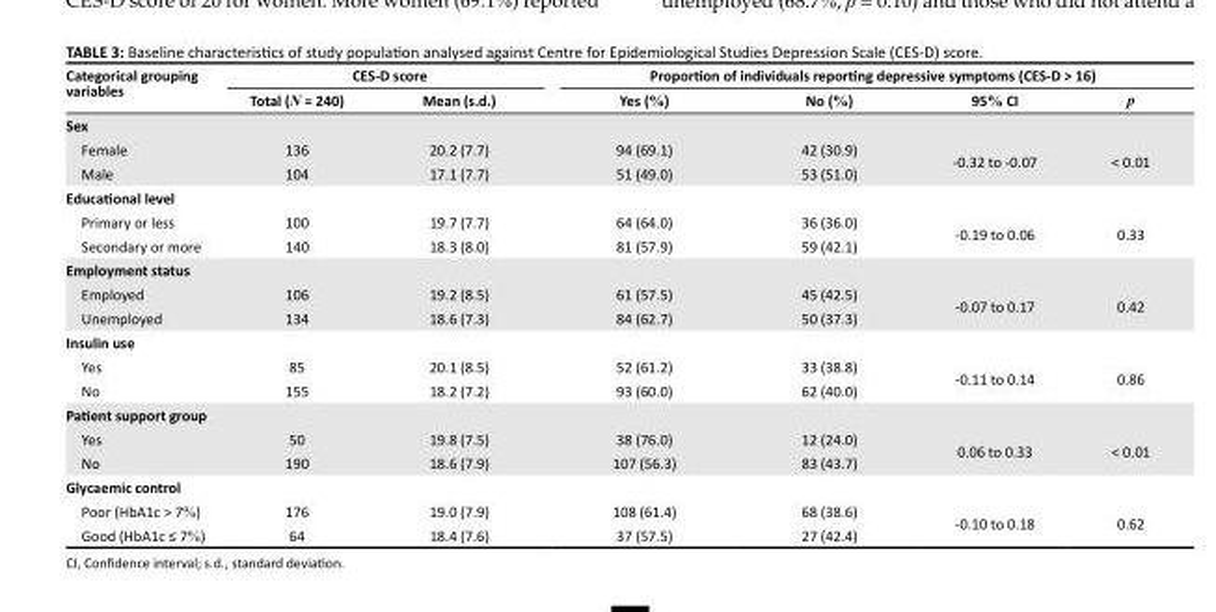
<table><thead><tr><td rowspan="2">Categorical grouping variables</td><td colspan="2">CES-D score</td><td colspan="4">Proportion of individuals reporting depressive symptoms (CES-D &gt; 16)</td></tr><tr><td>Total (N = 240)</td><td>Mean (s.d.)</td><td>Yes (%)</td><td>No (%)</td><td>95% CI</td><td>p</td></tr></thead><tbody><tr><td colspan="7">Sex</td></tr><tr><td>Female</td><td>136</td><td>20.2 (7.7)</td><td>94 (69.1)</td><td>42 (30.9)</td><td rowspan="2">-0.32 to -0.07</td><td rowspan="2">&lt; 0.01</td></tr><tr><td>Male</td><td>104</td><td>17.1 (7.7)</td><td>51 (49.0)</td><td>53 (51.0)</td></tr><tr><td colspan="7">Educational level</td></tr><tr><td>Primary or less</td><td>100</td><td>19.7 (7.7)</td><td>64 (64.0)</td><td>36 (36.0)</td><td rowspan="2">-0.19 to 0.06</td><td rowspan="2">0.33</td></tr><tr><td>Secondary or more</td><td>140</td><td>18.3 (8.0)</td><td>81 (57.9)</td><td>59 (42.1)</td></tr><tr><td colspan="7">Employment status</td></tr><tr><td>Employed</td><td>106</td><td>19.2 (8.5)</td><td>61 (57.5)</td><td>45 (42.5)</td><td rowspan="2">-0.07 to 0.17</td><td rowspan="2">0.42</td></tr><tr><td>Unemployed</td><td>134</td><td>18.6 (7.3)</td><td>84 (62.7)</td><td>50 (37.3)</td></tr><tr><td colspan="7">Insulin use</td></tr><tr><td>Yes</td><td>85</td><td>20.1 (8.5)</td><td>52 (61.2)</td><td>33 (38.8)</td><td rowspan="2">-0.11 to 0.14</td><td rowspan="2">0.86</td></tr><tr><td>No</td><td>155</td><td>18.2 (7.2)</td><td>93 (60.0)</td><td>62 (40.0)</td></tr><tr><td colspan="7">Patient support group</td></tr><tr><td>Yes</td><td>50</td><td>19.8 (7.5)</td><td>38 (76.0)</td><td>12 (24.0)</td><td rowspan="2">0.06 to 0.33</td><td rowspan="2">&lt; 0.01</td></tr><tr><td>No</td><td>190</td><td>18.6 (7.9)</td><td>107 (56.3)</td><td>83 (43.7)</td></tr><tr><td colspan="7">Glycaemic control</td></tr><tr><td>Poor (HbA1c &gt; 7%)</td><td>176</td><td>19.0 (7.9)</td><td>108 (61.4)</td><td>68 (38.6)</td><td rowspan="2">-0.10 to 0.18</td><td rowspan="2">0.62</td></tr><tr><td>Good (HbA1c ≤ 7%)</td><td>64</td><td>18.4 (7.6)</td><td>37 (57.5)</td><td>27 (42.4)</td></tr></tbody></table>